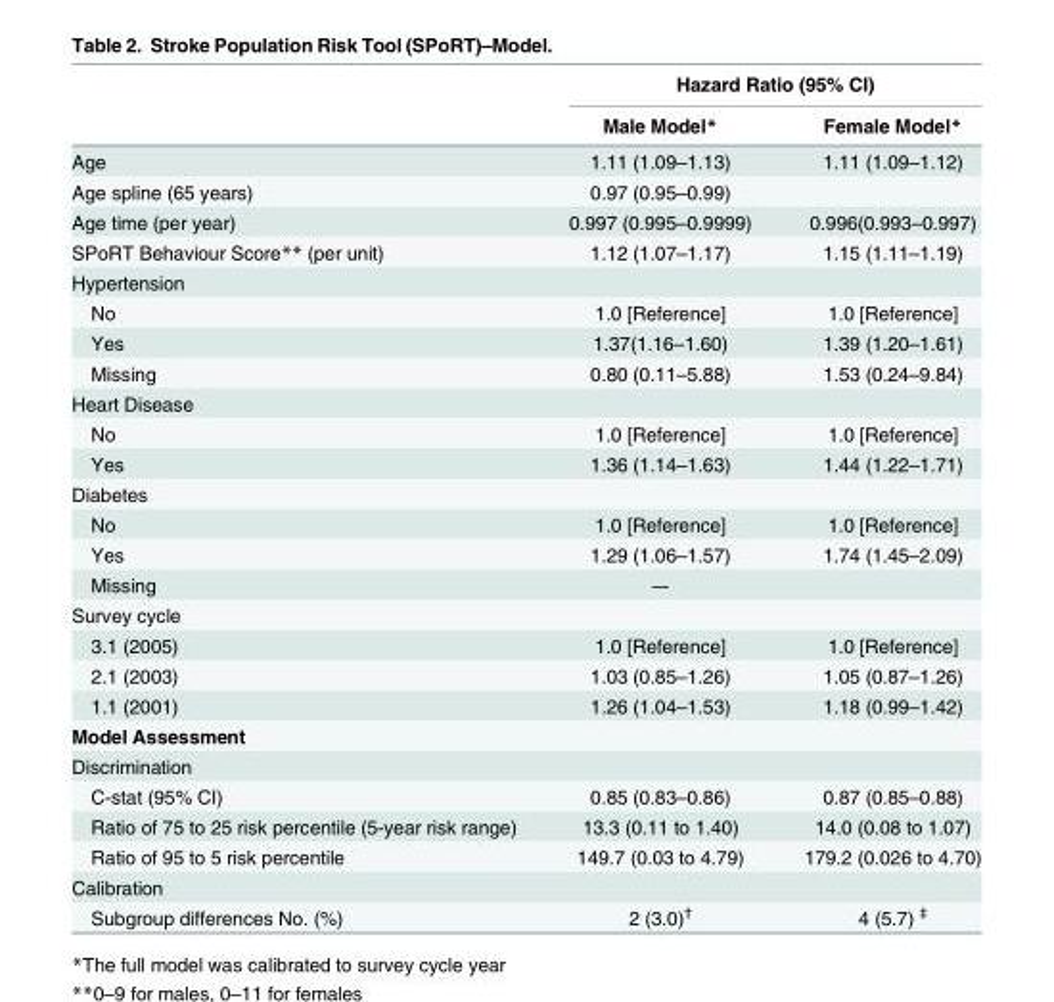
<table><thead><tr><td rowspan="2"></td><td colspan="2">Hazard Ratio (95% CI)</td></tr><tr><td>Male Model*</td><td>Female Model*</td></tr></thead><tbody><tr><td>Age</td><td>1.11 (1.09–1.13)</td><td>1.11 (1.09–1.12)</td></tr><tr><td>Age spline (65 years)</td><td>0.97 (0.95–0.99)</td><td></td></tr><tr><td>Age time (per year)</td><td>0.997 (0.995–0.9999)</td><td>0.996(0.993–0.997)</td></tr><tr><td>SPoRT Behaviour Score** (per unit)</td><td>1.12 (1.07–1.17)</td><td>1.15 (1.11–1.19)</td></tr><tr><td colspan="3">Hypertension</td></tr><tr><td>No</td><td>1.0 [Reference]</td><td>1.0 [Reference]</td></tr><tr><td>Yes</td><td>1.37(1.16–1.60)</td><td>1.39 (1.20–1.61)</td></tr><tr><td>Missing</td><td>0.80 (0.11–5.88)</td><td>1.53 (0.24–9.84)</td></tr><tr><td colspan="3">Heart Disease</td></tr><tr><td>No</td><td>1.0 [Reference]</td><td>1.0 [Reference]</td></tr><tr><td>Yes</td><td>1.36 (1.14–1.63)</td><td>1.44 (1.22–1.71)</td></tr><tr><td colspan="3">Diabetes</td></tr><tr><td>No</td><td>1.0 [Reference]</td><td>1.0 [Reference]</td></tr><tr><td>Yes</td><td>1.29 (1.06–1.57)</td><td>1.74 (1.45–2.09)</td></tr><tr><td>Missing</td><td>–-</td><td></td></tr><tr><td colspan="3">Survey cycle</td></tr><tr><td>3.1 (2005)</td><td>1.0 [Reference]</td><td>1.0 [Reference]</td></tr><tr><td>2.1 (2003)</td><td>1.03 (0.85–1.26)</td><td>1.05 (0.87–1.26)</td></tr><tr><td>1.1 (2001)</td><td>1.26 (1.04–1.53)</td><td>1.18 (0.99–1.42)</td></tr><tr><td colspan="3">Model Assessment</td></tr><tr><td colspan="3">Discrimination</td></tr><tr><td>C-stat (95% CI)</td><td>0.85 (0.83–0.86)</td><td>0.87 (0.85–0.88)</td></tr><tr><td>Ratio of 75 to 25 risk percentile (5-year risk range)</td><td>13.3 (0.11 to 1.40)</td><td>14.0 (0.08 to 1.07)</td></tr><tr><td>Ratio of 95 to 5 risk percentile</td><td>149.7 (0.03 to 4.79)</td><td>179.2 (0.026 to 4.70)</td></tr><tr><td colspan="3">Calibration</td></tr><tr><td>Subgroup differences No. (%)</td><td>2 (3.0)<sup>†</sup></td><td>4 (5.7) <sup>‡</sup></td></tr></tbody></table>